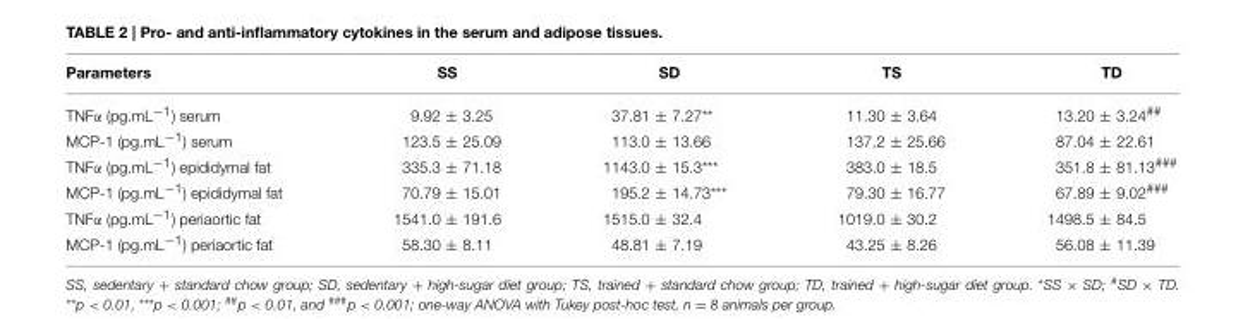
<table><thead><tr><td>Parameters</td><td>SS</td><td>SD</td><td>TS</td><td>TD</td></tr></thead><tbody><tr><td>TNFα (pg.mL<sup>−1</sup>) serum</td><td>9.92 ± 3.25</td><td>37.81 ± 7.27**</td><td>11.30 ± 3.64</td><td>13.20 ± 3.24<sup>##</sup></td></tr><tr><td>MCP-1 (pg.mL<sup>−1</sup>) serum</td><td>123.5 ± 25.09</td><td>113.0 ± 13.66</td><td>137.2 ± 25.66</td><td>87.04 ± 22.61</td></tr><tr><td>TNFα (pg.mL<sup>−1</sup>) epididymal fat</td><td>335.3 ± 71.18</td><td>1143.0 ± 15.3***</td><td>383.0 ± 18.5</td><td>351.8 ± 81.13<sup>###</sup></td></tr><tr><td>MCP-1 (pg.mL<sup>−1</sup>) epididymal fat</td><td>70.79 ± 15.01</td><td>195.2 ± 14.73***</td><td>79.30 ± 16.77</td><td>67.89 ± 9.02<sup>###</sup></td></tr><tr><td>TNFα (pg.mL<sup>−1</sup>) periaortic fat</td><td>1541.0 ± 191.6</td><td>1515.0 ± 32.4</td><td>1019.0 ± 30.2</td><td>1498.5 ± 84.5</td></tr><tr><td>MCP-1 (pg.mL<sup>−1</sup>) periaortic fat</td><td>58.30 ± 8.11</td><td>48.81 ± 7.19</td><td>43.25 ± 8.26</td><td>56.08 ± 11.39</td></tr></tbody></table>